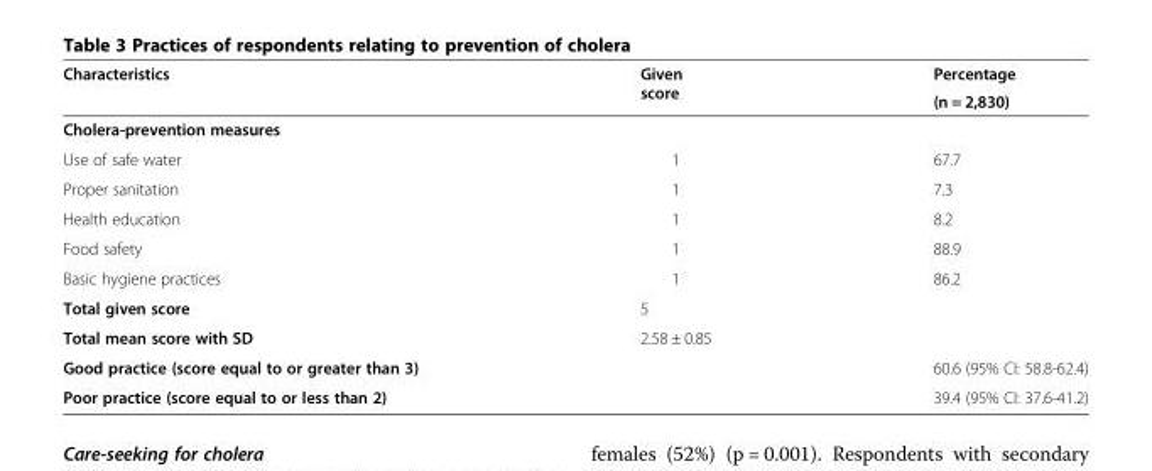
<table><thead><tr><td rowspan="2">Characteristics</td><td rowspan="2">Given score</td><td rowspan="2">Percentage (n = 2,830)</td></tr><tr></tr></thead><tbody><tr><td colspan="3">Cholera-prevention measures</td></tr><tr><td>Use of safe water</td><td>1</td><td>67.7</td></tr><tr><td>Proper sanitation</td><td>1</td><td>7.3</td></tr><tr><td>Health education</td><td>1</td><td>8.2</td></tr><tr><td>Food safety</td><td>1</td><td>88.9</td></tr><tr><td>Basic hygiene practices</td><td>1</td><td>86.2</td></tr><tr><td>Total given score</td><td>5</td><td></td></tr><tr><td>Total mean score with SD</td><td>2.58 ± 0.85</td><td></td></tr><tr><td>Good practice (score equal to or greater than 3)</td><td></td><td>60.6 (95% CI: 58.8-62.4)</td></tr><tr><td>Poor practice (score equal to or less than 2)</td><td></td><td>39.4 (95% CI: 37.6-41.2)</td></tr></tbody></table>